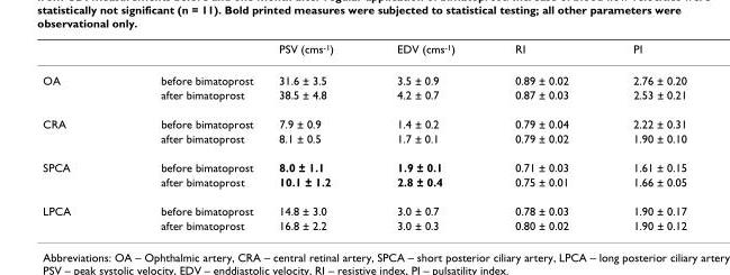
<table><thead><tr><td></td><td></td><td>PSV (cms-1)</td><td>EDV (cms-1)</td><td>RI</td><td>PI</td></tr></thead><tbody><tr><td rowspan="2">OA</td><td>before bimatoprost</td><td>31.6 ± 3.5</td><td>3.5 ± 0.9</td><td>0.89 ± 0.02</td><td>2.76 ± 0.20</td></tr><tr><td>after bimatoprost</td><td>38.5 ± 4.8</td><td>4.2 ± 0.7</td><td>0.87 ± 0.03</td><td>2.53 ± 0.21</td></tr><tr><td rowspan="2">CRA</td><td>before bimatoprost</td><td>7.9 ± 0.9</td><td>1.4 ± 0.2</td><td>0.79 ± 0.04</td><td>2.22 ± 0.31</td></tr><tr><td>after bimatoprost</td><td>8.1 ± 0.5</td><td>1.7 ± 0.1</td><td>0.79 ± 0.02</td><td>1.90 ± 0.10</td></tr><tr><td rowspan="2">SPCA</td><td>before bimatoprost</td><td>8.0 ± 1.1</td><td>1.9 ± 0.1</td><td>0.71 ± 0.03</td><td>1.61 ± 0.15</td></tr><tr><td>after bimatoprost</td><td>10.1 ± 1.2</td><td>2.8 ± 0.4</td><td>0.75 ± 0.01</td><td>1.66 ± 0.05</td></tr><tr><td rowspan="2">LPCA</td><td>before bimatoprost</td><td>14.8 ± 3.0</td><td>3.0 ± 0.7</td><td>0.78 ± 0.03</td><td>1.90 ± 0.17</td></tr><tr><td>after bimatoprost</td><td>16.8 ± 2.2</td><td>3.0 ± 0.3</td><td>0.80 ± 0.02</td><td>1.90 ± 0.12</td></tr></tbody></table>